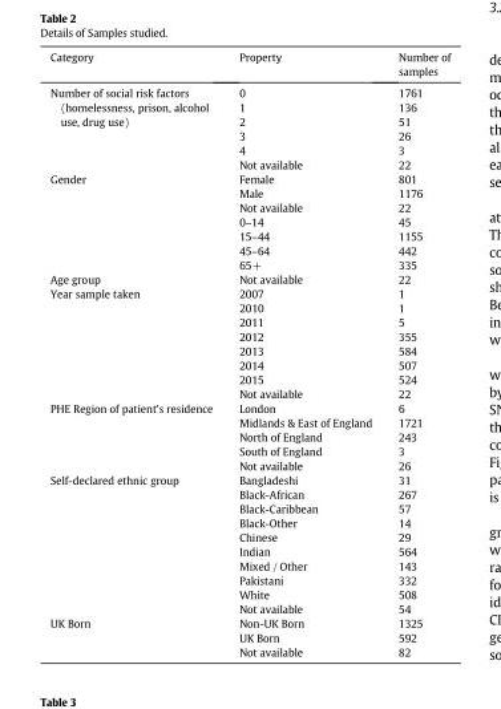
<table><thead><tr><td>Category</td><td>Property</td><td>Number of samples</td></tr></thead><tbody><tr><td rowspan="6">Number of social risk factors (homelessness, prison, alcohol use, drug use)</td><td>0</td><td>1761</td></tr><tr><td>1</td><td>136</td></tr><tr><td>2</td><td>51</td></tr><tr><td>3</td><td>26</td></tr><tr><td>4</td><td>3</td></tr><tr><td>Not available</td><td>22</td></tr><tr><td rowspan="7">Gender</td><td>Female</td><td>801</td></tr><tr><td>Male</td><td>1176</td></tr><tr><td>Not available</td><td>22</td></tr><tr><td>0–14</td><td>45</td></tr><tr><td>15–44</td><td>1155</td></tr><tr><td>45–64</td><td>442</td></tr><tr><td>65+</td><td>335</td></tr><tr><td>Age group</td><td>Not available</td><td>22</td></tr><tr><td rowspan="8">Year sample taken</td><td>2007</td><td>1</td></tr><tr><td>2010</td><td>1</td></tr><tr><td>2011</td><td>5</td></tr><tr><td>2012</td><td>355</td></tr><tr><td>2013</td><td>584</td></tr><tr><td>2014</td><td>507</td></tr><tr><td>2015</td><td>524</td></tr><tr><td>Not available</td><td>22</td></tr><tr><td rowspan="5">PHE Region of patient&#x27;s residence</td><td>London</td><td>6</td></tr><tr><td>Midlands &amp; East of England</td><td>1721</td></tr><tr><td>North of England</td><td>243</td></tr><tr><td>South of England</td><td>3</td></tr><tr><td>Not available</td><td>26</td></tr><tr><td rowspan="10">Self-declared ethnic group</td><td>Bangladeshi</td><td>31</td></tr><tr><td>Black-African</td><td>267</td></tr><tr><td>Black-Caribbean</td><td>57</td></tr><tr><td>Black-Other</td><td>14</td></tr><tr><td>Chinese</td><td>29</td></tr><tr><td>Indian</td><td>564</td></tr><tr><td>Mixed / Other</td><td>143</td></tr><tr><td>Pakistani</td><td>332</td></tr><tr><td>White</td><td>508</td></tr><tr><td>Not available</td><td>54</td></tr><tr><td rowspan="3">UK Born</td><td>Non-UK Born</td><td>1325</td></tr><tr><td>UK Born</td><td>592</td></tr><tr><td>Not available</td><td>82</td></tr></tbody></table>